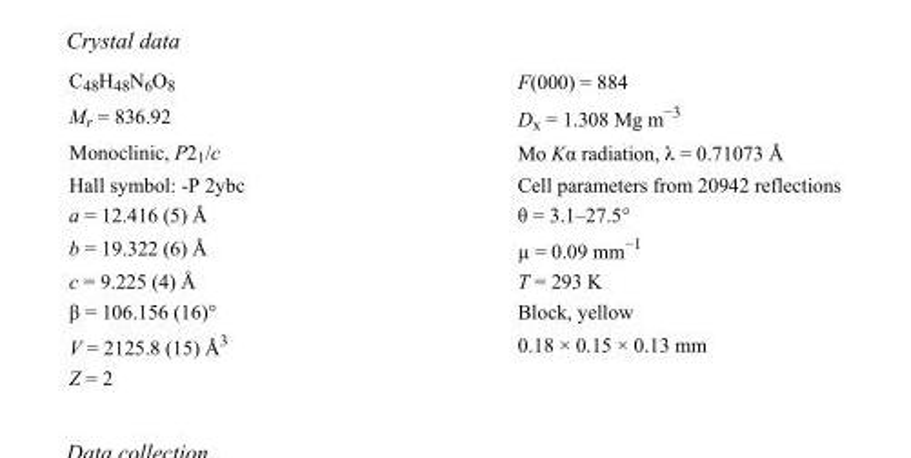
<table><tbody><tr><td>C<sub>48</sub>H<sub>48</sub>N<sub>6</sub>O<sub>8</sub></td><td>F(000) = 884</td></tr><tr><td>M<sub>r</sub> = 836.92</td><td>D<sub>x</sub> = 1.308 Mg m<sup>−3</sup></td></tr><tr><td>Monoclinic, P2<sub>1</sub>/c</td><td>Mo Kα radiation, λ = 0.71073 Å</td></tr><tr><td>Hall symbol: -P 2ybc</td><td>Cell parameters from 20942 reflections</td></tr><tr><td>a = 12.416 (5) Å</td><td>θ = 3.1–27.5°</td></tr><tr><td>b = 19.322 (6) Å</td><td>µ = 0.09 mm<sup>−1</sup></td></tr><tr><td>c = 9.225 (4) Å</td><td>T = 293 K</td></tr><tr><td>β = 106.156 (16)°</td><td>Block, yellow</td></tr><tr><td>V = 2125.8 (15) Å<sup>3</sup></td><td>0.18 × 0.15 × 0.13 mm</td></tr><tr><td>Z = 2</td><td></td></tr></tbody></table>